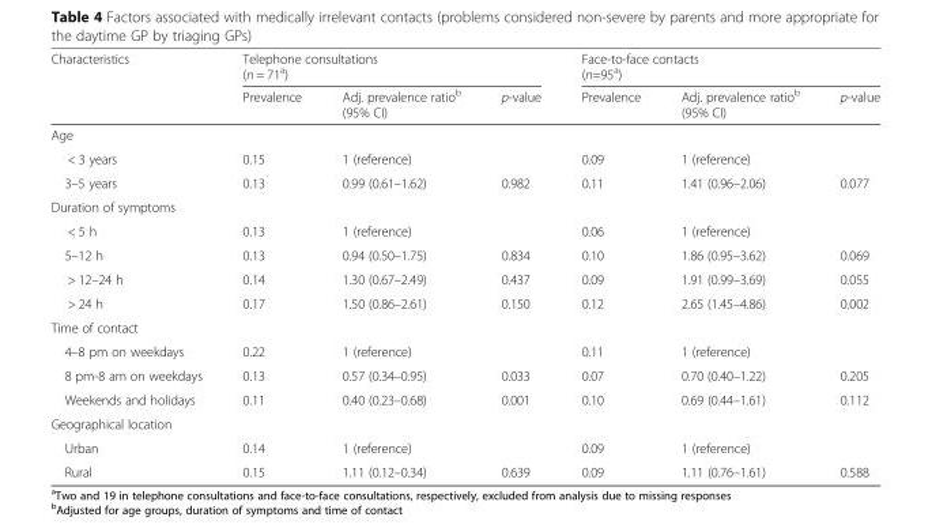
<table><thead><tr><td rowspan="2">Characteristics</td><td colspan="3">Telephone consultations (n = 71<sup>a</sup>)</td><td colspan="3">Face-to-face contacts (n=95<sup>a</sup>)</td></tr><tr><td>Prevalence</td><td>Adj. prevalence ratio<sup>b</sup> (95% CI)</td><td>p-value</td><td>Prevalence</td><td>Adj. prevalence ratio<sup>b</sup> (95% CI)</td><td>p-value</td></tr></thead><tbody><tr><td colspan="7">Age</td></tr><tr><td>&lt; 3 years</td><td>0.15</td><td>1 (reference)</td><td></td><td>0.09</td><td>1 (reference)</td><td></td></tr><tr><td>3–5 years</td><td>0.13</td><td>0.99 (0.61–1.62)</td><td>0.982</td><td>0.11</td><td>1.41 (0.96–2.06)</td><td>0.077</td></tr><tr><td colspan="7">Duration of symptoms</td></tr><tr><td>&lt; 5 h</td><td>0.13</td><td>1 (reference)</td><td></td><td>0.06</td><td>1 (reference)</td><td></td></tr><tr><td>5–12 h</td><td>0.13</td><td>0.94 (0.50–1.75)</td><td>0.834</td><td>0.10</td><td>1.86 (0.95–3.62)</td><td>0.069</td></tr><tr><td>&gt; 12–24 h</td><td>0.14</td><td>1.30 (0.67–2.49)</td><td>0.437</td><td>0.09</td><td>1.91 (0.99–3.69)</td><td>0.055</td></tr><tr><td>&gt; 24 h</td><td>0.17</td><td>1.50 (0.86–2.61)</td><td>0.150</td><td>0.12</td><td>2.65 (1.45–4.86)</td><td>0.002</td></tr><tr><td colspan="7">Time of contact</td></tr><tr><td>4–8 pm on weekdays</td><td>0.22</td><td>1 (reference)</td><td></td><td>0.11</td><td>1 (reference)</td><td></td></tr><tr><td>8 pm-8 am on weekdays</td><td>0.13</td><td>0.57 (0.34–0.95)</td><td>0.033</td><td>0.07</td><td>0.70 (0.40–1.22)</td><td>0.205</td></tr><tr><td>Weekends and holidays</td><td>0.11</td><td>0.40 (0.23–0.68)</td><td>0.001</td><td>0.10</td><td>0.69 (0.44–1.61)</td><td>0.112</td></tr><tr><td colspan="7">Geographical location</td></tr><tr><td>Urban</td><td>0.14</td><td>1 (reference)</td><td></td><td>0.09</td><td>1 (reference)</td><td></td></tr><tr><td>Rural</td><td>0.15</td><td>1.11 (0.12–0.34)</td><td>0.639</td><td>0.09</td><td>1.11 (0.76–1.61)</td><td>0.588</td></tr></tbody></table>